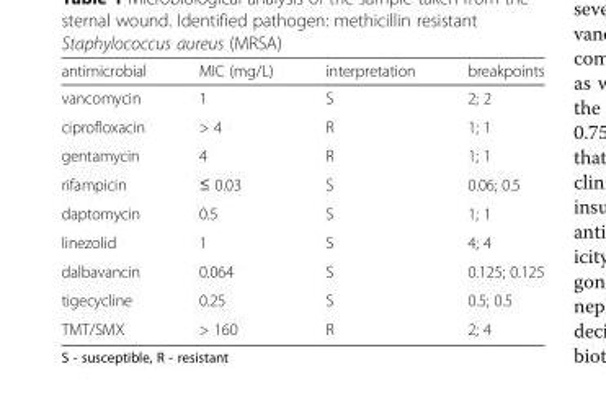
<table><thead><tr><td>antimicrobial</td><td>MIC (mg/L)</td><td>interpretation</td><td>breakpoints</td></tr></thead><tbody><tr><td>vancomycin</td><td>1</td><td>S</td><td>2; 2</td></tr><tr><td>ciprofloxacin</td><td>&gt; 4</td><td>R</td><td>1; 1</td></tr><tr><td>gentamycin</td><td>4</td><td>R</td><td>1; 1</td></tr><tr><td>rifampicin</td><td>≤ 0.03</td><td>S</td><td>0.06; 0.5</td></tr><tr><td>daptomycin</td><td>0.5</td><td>S</td><td>1; 1</td></tr><tr><td>linezolid</td><td>1</td><td>S</td><td>4; 4</td></tr><tr><td>dalbavancin</td><td>0.064</td><td>S</td><td>0.125; 0.125</td></tr><tr><td>tigecycline</td><td>0.25</td><td>S</td><td>0.5; 0.5</td></tr><tr><td>TMT/SMX</td><td>&gt; 160</td><td>R</td><td>2; 4</td></tr></tbody></table>